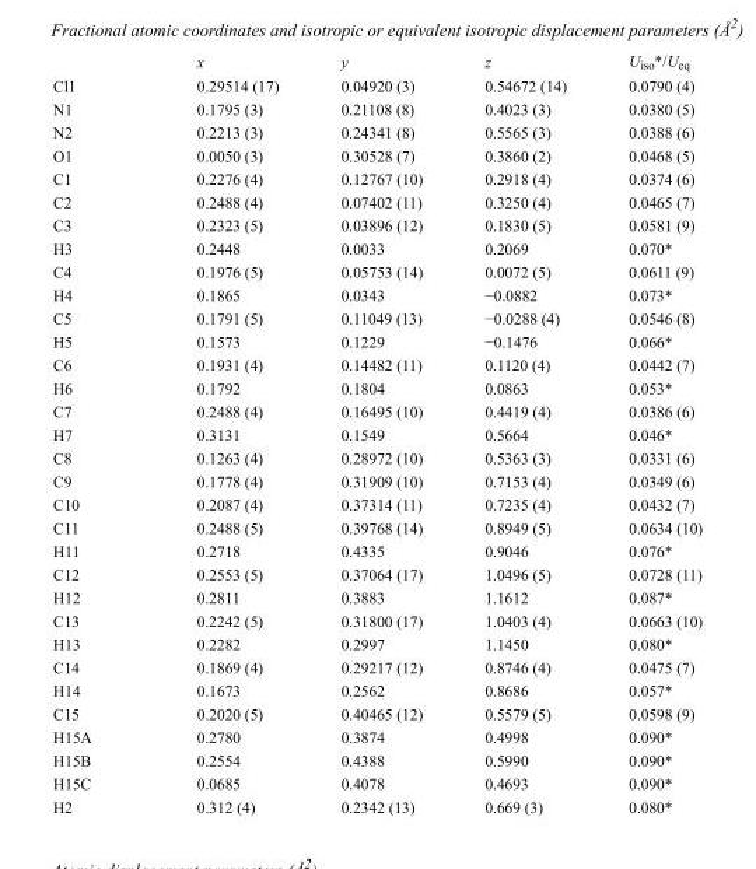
<table><thead><tr><td></td><td>x</td><td>y</td><td>z</td><td>U<sub>iso</sub>*/U<sub>eq</sub></td></tr></thead><tbody><tr><td>Cl1</td><td>0.29514 (17)</td><td>0.04920 (3)</td><td>0.54672 (14)</td><td>0.0790 (4)</td></tr><tr><td>N1</td><td>0.1795 (3)</td><td>0.21108 (8)</td><td>0.4023 (3)</td><td>0.0380 (5)</td></tr><tr><td>N2</td><td>0.2213 (3)</td><td>0.24341 (8)</td><td>0.5565 (3)</td><td>0.0388 (6)</td></tr><tr><td>O1</td><td>0.0050 (3)</td><td>0.30528 (7)</td><td>0.3860 (2)</td><td>0.0468 (5)</td></tr><tr><td>C1</td><td>0.2276 (4)</td><td>0.12767 (10)</td><td>0.2918 (4)</td><td>0.0374 (6)</td></tr><tr><td>C2</td><td>0.2488 (4)</td><td>0.07402 (11)</td><td>0.3250 (4)</td><td>0.0465 (7)</td></tr><tr><td>C3</td><td>0.2323 (5)</td><td>0.03896 (12)</td><td>0.1830 (5)</td><td>0.0581 (9)</td></tr><tr><td>H3</td><td>0.2448</td><td>0.0033</td><td>0.2069</td><td>0.070*</td></tr><tr><td>C4</td><td>0.1976 (5)</td><td>0.05753 (14)</td><td>0.0072 (5)</td><td>0.0611 (9)</td></tr><tr><td>H4</td><td>0.1865</td><td>0.0343</td><td>−0.0882</td><td>0.073*</td></tr><tr><td>C5</td><td>0.1791 (5)</td><td>0.11049 (13)</td><td>−0.0288 (4)</td><td>0.0546 (8)</td></tr><tr><td>H5</td><td>0.1573</td><td>0.1229</td><td>−0.1476</td><td>0.066*</td></tr><tr><td>C6</td><td>0.1931 (4)</td><td>0.14482 (11)</td><td>0.1120 (4)</td><td>0.0442 (7)</td></tr><tr><td>H6</td><td>0.1792</td><td>0.1804</td><td>0.0863</td><td>0.053*</td></tr><tr><td>C7</td><td>0.2488 (4)</td><td>0.16495 (10)</td><td>0.4419 (4)</td><td>0.0386 (6)</td></tr><tr><td>H7</td><td>0.3131</td><td>0.1549</td><td>0.5664</td><td>0.046*</td></tr><tr><td>C8</td><td>0.1263 (4)</td><td>0.28972 (10)</td><td>0.5363 (3)</td><td>0.0331 (6)</td></tr><tr><td>C9</td><td>0.1778 (4)</td><td>0.31909 (10)</td><td>0.7153 (4)</td><td>0.0349 (6)</td></tr><tr><td>C10</td><td>0.2087 (4)</td><td>0.37314 (11)</td><td>0.7235 (4)</td><td>0.0432 (7)</td></tr><tr><td>C11</td><td>0.2488 (5)</td><td>0.39768 (14)</td><td>0.8949 (5)</td><td>0.0634 (10)</td></tr><tr><td>H11</td><td>0.2718</td><td>0.4335</td><td>0.9046</td><td>0.076*</td></tr><tr><td>C12</td><td>0.2553 (5)</td><td>0.37064 (17)</td><td>1.0496 (5)</td><td>0.0728 (11)</td></tr><tr><td>H12</td><td>0.2811</td><td>0.3883</td><td>1.1612</td><td>0.087*</td></tr><tr><td>C13</td><td>0.2242 (5)</td><td>0.31800 (17)</td><td>1.0403 (4)</td><td>0.0663 (10)</td></tr><tr><td>H13</td><td>0.2282</td><td>0.2997</td><td>1.1450</td><td>0.080*</td></tr><tr><td>C14</td><td>0.1869 (4)</td><td>0.29217 (12)</td><td>0.8746 (4)</td><td>0.0475 (7)</td></tr><tr><td>H14</td><td>0.1673</td><td>0.2562</td><td>0.8686</td><td>0.057*</td></tr><tr><td>C15</td><td>0.2020 (5)</td><td>0.40465 (12)</td><td>0.5579 (5)</td><td>0.0598 (9)</td></tr><tr><td>H15A</td><td>0.2780</td><td>0.3874</td><td>0.4998</td><td>0.090*</td></tr><tr><td>H15B</td><td>0.2554</td><td>0.4388</td><td>0.5990</td><td>0.090*</td></tr><tr><td>H15C</td><td>0.0685</td><td>0.4078</td><td>0.4693</td><td>0.090*</td></tr><tr><td>H2</td><td>0.312 (4)</td><td>0.2342 (13)</td><td>0.669 (3)</td><td>0.080*</td></tr></tbody></table>